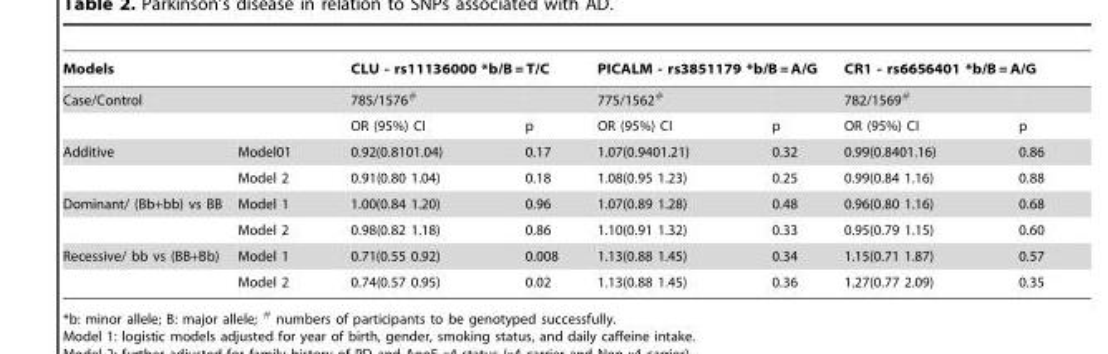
<table><thead><tr><td rowspan="3" colspan="2">Models Case/Control</td><td colspan="2">CLU - rs11136000 *b/B = T/C</td><td colspan="2">PICALM - rs3851179 *b/B = A/G</td><td colspan="2">CR1 - rs6656401 *b/B = A/G</td></tr><tr><td rowspan="3">785/1576# OR (95%) CI 0.92(0.8101.04)</td><td rowspan="3">p 0.17</td><td rowspan="3">775/1562# OR (95%) CI 1.07(0.9401.21)</td><td rowspan="3">p 0.32</td><td rowspan="3">782/1569# OR (95%) CI 0.99(0.8401.16)</td><td rowspan="3">p 0.86</td></tr><tr></tr><tr><td>Additive</td><td>Model01</td></tr></thead><tbody><tr><td></td><td>Model 2</td><td>0.91(0.80 1.04)</td><td>0.18</td><td>1.08(0.95 1.23)</td><td>0.25</td><td>0.99(0.84 1.16)</td><td>0.88</td></tr><tr><td rowspan="2">Dominant/ (Bb+bb) vs BB</td><td>Model 1</td><td>1.00(0.84 1.20)</td><td>0.96</td><td>1.07(0.89 1.28)</td><td>0.48</td><td>0.96(0.80 1.16)</td><td>0.68</td></tr><tr><td>Model 2</td><td>0.98(0.82 1.18)</td><td>0.86</td><td>1.10(0.91 1.32)</td><td>0.33</td><td>0.95(0.79 1.15)</td><td>0.60</td></tr><tr><td rowspan="2">Recessive/ bb vs (BB+Bb)</td><td>Model 1</td><td>0.71(0.55 0.92)</td><td>0.008</td><td>1.13(0.88 1.45)</td><td>0.34</td><td>1.15(0.71 1.87)</td><td>0.57</td></tr><tr><td>Model 2</td><td>0.74(0.57 0.95)</td><td>0.02</td><td>1.13(0.88 1.45)</td><td>0.36</td><td>1.27(0.77 2.09)</td><td>0.35</td></tr></tbody></table>